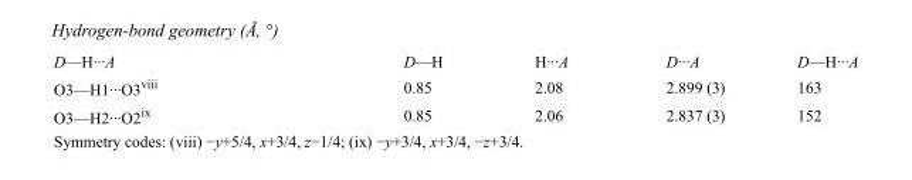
<table><tbody><tr><td>D—H···A</td><td>D—H</td><td>H···A</td><td>D···A</td><td>D—H···A</td></tr><tr><td>O3—H1···O3<sup>viii</sup></td><td>0.85</td><td>2.08</td><td>2.899 (3)</td><td>163</td></tr><tr><td>O3—H2···O2<sup>ix</sup></td><td>0.85</td><td>2.06</td><td>2.837 (3)</td><td>152</td></tr></tbody></table>